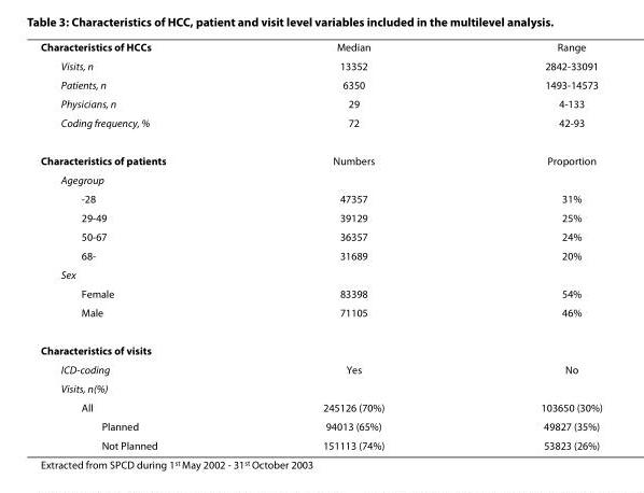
<table><tbody><tr><td>Characteristics of HCCs</td><td>Median</td><td>Range</td></tr><tr><td>Visits, n</td><td>13352</td><td>2842-33091</td></tr><tr><td>Patients, n</td><td>6350</td><td>1493-14573</td></tr><tr><td>Physicians, n</td><td>29</td><td>4-133</td></tr><tr><td>Coding frequency, %</td><td>72</td><td>42-93</td></tr><tr><td>Characteristics of patients</td><td>Numbers</td><td>Proportion</td></tr><tr><td colspan="3">Agegroup</td></tr><tr><td>-28</td><td>47357</td><td>31%</td></tr><tr><td>29-49</td><td>39129</td><td>25%</td></tr><tr><td>50-67</td><td>36357</td><td>24%</td></tr><tr><td>68-</td><td>31689</td><td>20%</td></tr><tr><td colspan="3">Sex</td></tr><tr><td>Female</td><td>83398</td><td>54%</td></tr><tr><td>Male</td><td>71105</td><td>46%</td></tr><tr><td colspan="3">Characteristics of visits</td></tr><tr><td>ICD-coding</td><td>Yes</td><td>No</td></tr><tr><td colspan="3">Visits, n(%)</td></tr><tr><td>All</td><td>245126 (70%)</td><td>103650 (30%)</td></tr><tr><td>Planned</td><td>94013 (65%)</td><td>49827 (35%)</td></tr><tr><td>Not Planned</td><td>151113 (74%)</td><td>53823 (26%)</td></tr></tbody></table>